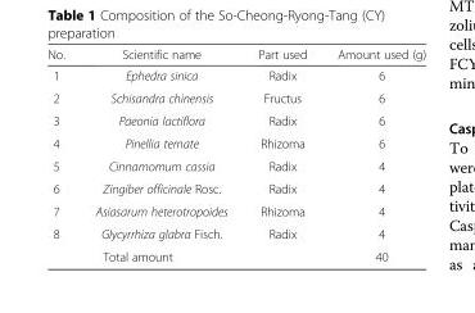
<table><thead><tr><td>No.</td><td>Scientific name</td><td>Part used</td><td>Amount used (g)</td></tr></thead><tbody><tr><td>1</td><td>Ephedra sinica</td><td>Radix</td><td>6</td></tr><tr><td>2</td><td>Schisandra chinensis</td><td>Fructus</td><td>6</td></tr><tr><td>3</td><td>Paeonia lactiflora</td><td>Radix</td><td>6</td></tr><tr><td>4</td><td>Pinellia ternate</td><td>Rhizoma</td><td>6</td></tr><tr><td>5</td><td>Cinnamomum cassia</td><td>Radix</td><td>4</td></tr><tr><td>6</td><td>Zingiber officinale Rosc.</td><td>Radix</td><td>4</td></tr><tr><td>7</td><td>Asiasarum heterotropoides</td><td>Rhizoma</td><td>4</td></tr><tr><td>8</td><td>Glycyrrhiza glabra Fisch.</td><td>Radix</td><td>4</td></tr><tr><td colspan="2">Total amount</td><td></td><td>40</td></tr></tbody></table>